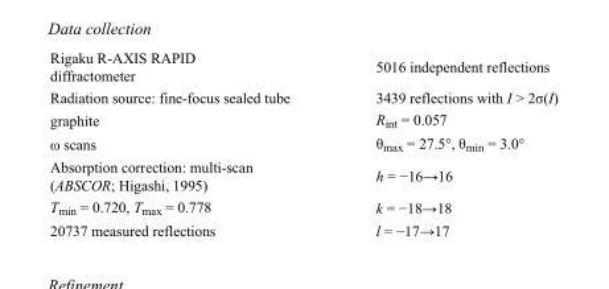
<table><tbody><tr><td>Rigaku R-AXIS RAPID diffractometer</td><td>5016 independent reflections</td></tr><tr><td>Radiation source: fine-focus sealed tube</td><td>3439 reflections with I &gt; 2σ(I)</td></tr><tr><td>graphite</td><td>R<sub>int</sub> = 0.057</td></tr><tr><td>ω scans</td><td>θ<sub>max</sub> = 27.5°, θ<sub>min</sub> = 3.0°</td></tr><tr><td>Absorption correction: multi-scan (ABSCOR; Higashi, 1995)</td><td>h = −16→16</td></tr><tr><td>T<sub>min</sub> = 0.720, T<sub>max</sub> = 0.778</td><td>k = −18→18</td></tr><tr><td>20737 measured reflections</td><td>l = −17→17</td></tr></tbody></table>